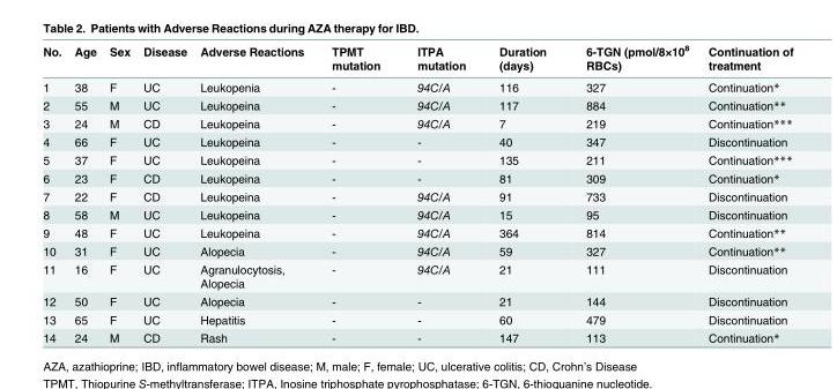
<table><thead><tr><td>No.</td><td>Age</td><td>Sex</td><td>Disease</td><td>Adverse Reactions</td><td>TPMT mutation</td><td>ITPA mutation</td><td>Duration (days)</td><td>6-TGN (pmol/8×10<sup>8</sup> RBCs)</td><td>Continuation of treatment</td></tr></thead><tbody><tr><td>1</td><td>38</td><td>F</td><td>UC</td><td>Leukopenia</td><td>-</td><td>94C/A</td><td>116</td><td>327</td><td>Continuation*</td></tr><tr><td>2</td><td>55</td><td>M</td><td>UC</td><td>Leukopeina</td><td>-</td><td>94C/A</td><td>117</td><td>884</td><td>Continuation**</td></tr><tr><td>3</td><td>24</td><td>M</td><td>CD</td><td>Leukopeina</td><td>-</td><td>94C/A</td><td>7</td><td>219</td><td>Continuation***</td></tr><tr><td>4</td><td>66</td><td>F</td><td>UC</td><td>Leukopeina</td><td>-</td><td>-</td><td>40</td><td>347</td><td>Discontinuation</td></tr><tr><td>5</td><td>37</td><td>F</td><td>UC</td><td>Leukopeina</td><td>-</td><td>-</td><td>135</td><td>211</td><td>Continuation***</td></tr><tr><td>6</td><td>23</td><td>F</td><td>CD</td><td>Leukopeina</td><td>-</td><td>-</td><td>81</td><td>309</td><td>Continuation*</td></tr><tr><td>7</td><td>22</td><td>F</td><td>CD</td><td>Leukopeina</td><td>-</td><td>94C/A</td><td>91</td><td>733</td><td>Discontinuation</td></tr><tr><td>8</td><td>58</td><td>M</td><td>UC</td><td>Leukopeina</td><td>-</td><td>94C/A</td><td>15</td><td>95</td><td>Discontinuation</td></tr><tr><td>9</td><td>48</td><td>F</td><td>UC</td><td>Leukopeina</td><td>-</td><td>94C/A</td><td>364</td><td>814</td><td>Continuation**</td></tr><tr><td>10</td><td>31</td><td>F</td><td>UC</td><td>Alopecia</td><td>-</td><td>94C/A</td><td>59</td><td>327</td><td>Continuation**</td></tr><tr><td>11</td><td>16</td><td>F</td><td>UC</td><td>Agranulocytosis, Alopecia</td><td>-</td><td>94C/A</td><td>21</td><td>111</td><td>Discontinuation</td></tr><tr><td>12</td><td>50</td><td>F</td><td>UC</td><td>Alopecia</td><td>-</td><td>-</td><td>21</td><td>144</td><td>Discontinuation</td></tr><tr><td>13</td><td>65</td><td>F</td><td>UC</td><td>Hepatitis</td><td>-</td><td>-</td><td>60</td><td>479</td><td>Discontinuation</td></tr><tr><td>14</td><td>24</td><td>M</td><td>CD</td><td>Rash</td><td>-</td><td>-</td><td>147</td><td>113</td><td>Continuation*</td></tr></tbody></table>